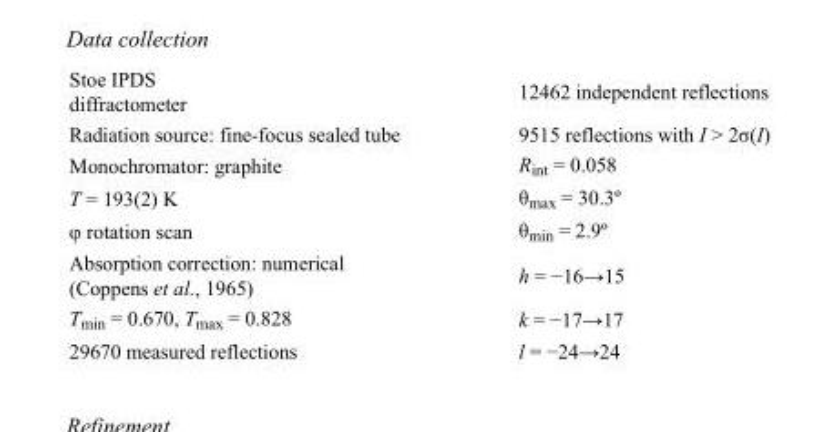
<table><tbody><tr><td>Stoe IPDS diffractometer</td><td>12462 independent reflections</td></tr><tr><td>Radiation source: fine-focus sealed tube</td><td>9515 reflections with I &gt; 2σ(I)</td></tr><tr><td>Monochromator: graphite</td><td>R<sub>int</sub> = 0.058</td></tr><tr><td>T = 193(2) K</td><td>θ<sub>max</sub> = 30.3º</td></tr><tr><td>φ rotation scan</td><td>θ<sub>min</sub> = 2.9º</td></tr><tr><td>Absorption correction: numerical (Coppens et al., 1965)</td><td>h = −16→15</td></tr><tr><td>T<sub>min</sub> = 0.670, T<sub>max</sub> = 0.828</td><td>k = −17→17</td></tr><tr><td>29670 measured reflections</td><td>l = −24→24</td></tr></tbody></table>